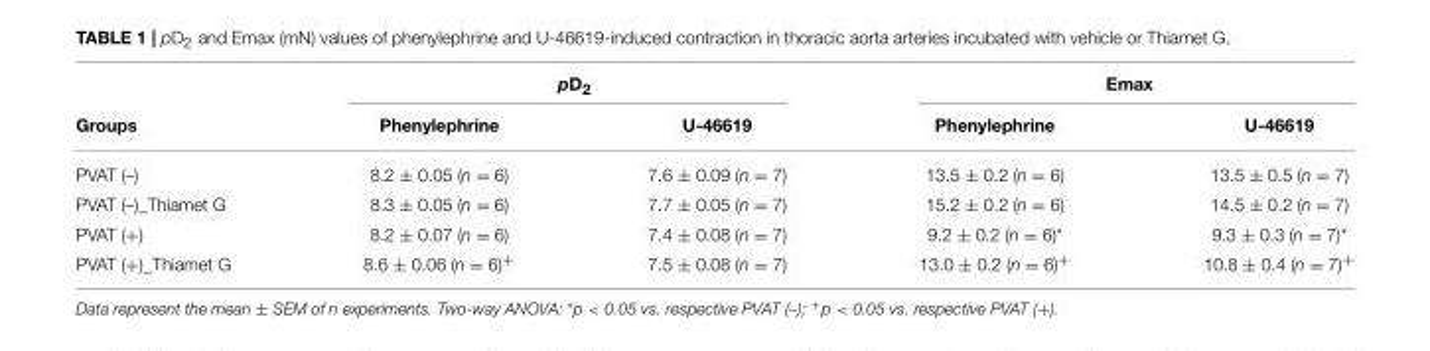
<table><thead><tr><td rowspan="2">Groups</td><td colspan="2">pD<sub>2</sub></td><td colspan="2">Emax</td></tr><tr><td>Phenylephrine</td><td>U-46619</td><td>Phenylephrine</td><td>U-46619</td></tr></thead><tbody><tr><td>PVAT (–)</td><td>8.2 ± 0.05 (n = 6)</td><td>7.6 ± 0.09 (n = 7)</td><td>13.5 ± 0.2 (n = 6)</td><td>13.5 ± 0.5 (n = 7)</td></tr><tr><td>PVAT (–)_Thiamet G</td><td>8.3 ± 0.05 (n = 6)</td><td>7.7 ± 0.05 (n = 7)</td><td>15.2 ± 0.2 (n = 6)</td><td>14.5 ± 0.2 (n = 7)</td></tr><tr><td>PVAT (+)</td><td>8.2 ± 0.07 (n = 6)</td><td>7.4 ± 0.08 (n = 7)</td><td>9.2 ± 0.2 (n = 6)*</td><td>9.3 ± 0.3 (n = 7)*</td></tr><tr><td>PVAT (+)_Thiamet G</td><td>8.6 ± 0.06 (n = 6)<sup>+</sup></td><td>7.5 ± 0.08 (n = 7)</td><td>13.0 ± 0.2 (n = 6)<sup>+</sup></td><td>10.8 ± 0.4 (n = 7)<sup>+</sup></td></tr></tbody></table>